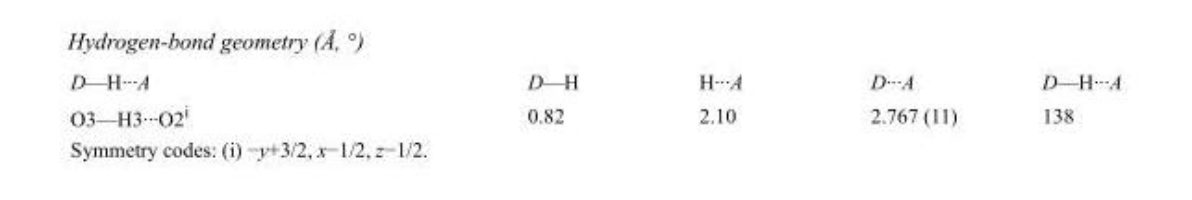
<table><tbody><tr><td>D—H···A</td><td>D—H</td><td>H···A</td><td>D···A</td><td>D—H···A</td></tr><tr><td>O3—H3···O2<sup>i</sup></td><td>0.82</td><td>2.10</td><td>2.767 (11)</td><td>138</td></tr></tbody></table>